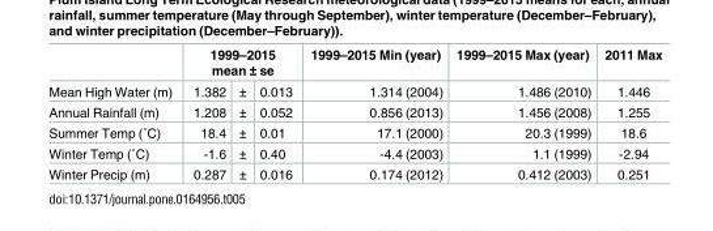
<table><thead><tr><td rowspan="2">Mean High Water (m)</td><td colspan="3">1999–2015 mean ± se</td><td rowspan="2">1999–2015 Min (year) 1.314 (2004)</td><td rowspan="2">1999–2015 Max (year) 1.486 (2010)</td><td rowspan="2">2011 Max 1.446</td></tr><tr><td>1.382</td><td>±</td><td>0.013</td></tr></thead><tbody><tr><td>Annual Rainfall (m)</td><td>1.208</td><td>±</td><td>0.052</td><td>0.856 (2013)</td><td>1.456 (2008)</td><td>1.255</td></tr><tr><td>Summer Temp (˚C)</td><td>18.4</td><td>±</td><td>0.01</td><td>17.1 (2000)</td><td>20.3 (1999)</td><td>18.6</td></tr><tr><td>Winter Temp (˚C)</td><td>-1.6</td><td>±</td><td>0.40</td><td>-4.4 (2003)</td><td>1.1 (1999)</td><td>-2.94</td></tr><tr><td>Winter Precip (m)</td><td>0.287</td><td>±</td><td>0.016</td><td>0.174 (2012)</td><td>0.412 (2003)</td><td>0.251</td></tr></tbody></table>